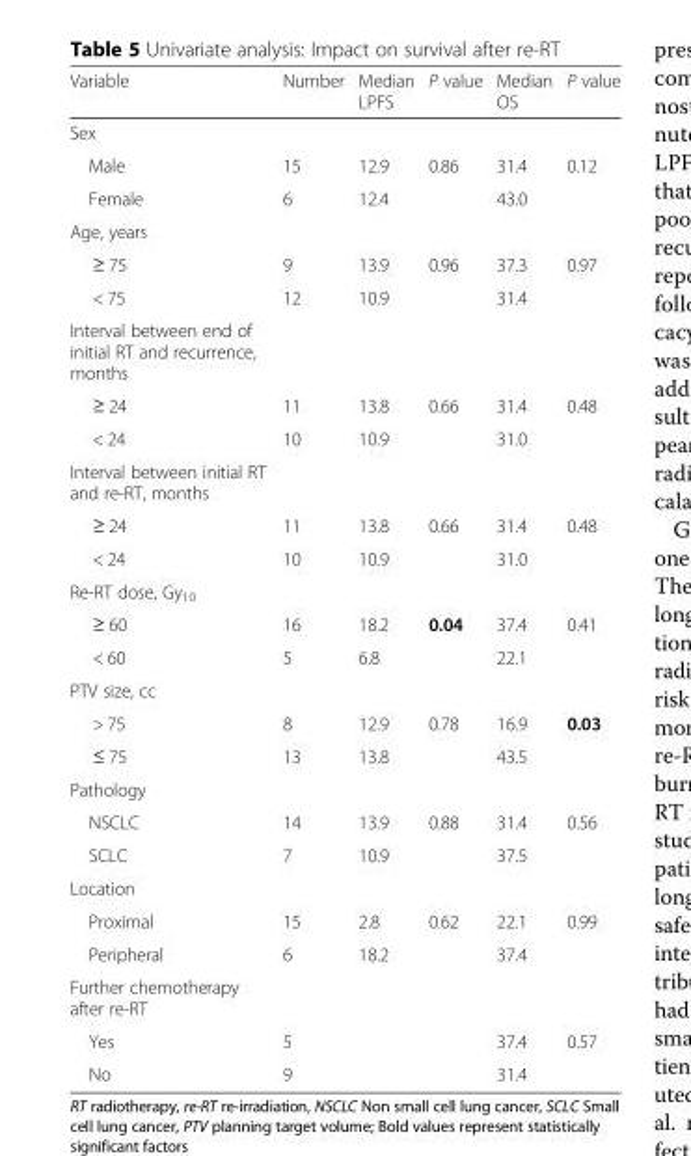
<table><thead><tr><td>Variable</td><td>Number</td><td>Median LPFS</td><td>P value</td><td>Median OS</td><td>P value</td></tr></thead><tbody><tr><td colspan="6">Sex</td></tr><tr><td>Male</td><td>15</td><td>12.9</td><td>0.86</td><td>31.4</td><td>0.12</td></tr><tr><td>Female</td><td>6</td><td>12.4</td><td></td><td>43.0</td><td></td></tr><tr><td colspan="6">Age, years</td></tr><tr><td>≥ 75</td><td>9</td><td>13.9</td><td>0.96</td><td>37.3</td><td>0.97</td></tr><tr><td>&lt; 75</td><td>12</td><td>10.9</td><td></td><td>31.4</td><td></td></tr><tr><td colspan="6">Interval between end of initial RT and recurrence, months</td></tr><tr><td>≥ 24</td><td>11</td><td>13.8</td><td>0.66</td><td>31.4</td><td>0.48</td></tr><tr><td>&lt; 24</td><td>10</td><td>10.9</td><td></td><td>31.0</td><td></td></tr><tr><td colspan="6">Interval between initial RT and re-RT, months</td></tr><tr><td>≥ 24</td><td>11</td><td>13.8</td><td>0.66</td><td>31.4</td><td>0.48</td></tr><tr><td>&lt; 24</td><td>10</td><td>10.9</td><td></td><td>31.0</td><td></td></tr><tr><td colspan="6">Re-RT dose, Gy<sub>10</sub></td></tr><tr><td>≥ 60</td><td>16</td><td>18.2</td><td>0.04</td><td>37.4</td><td>0.41</td></tr><tr><td>&lt; 60</td><td>5</td><td>6.8</td><td></td><td>22.1</td><td></td></tr><tr><td colspan="6">PTV size, cc</td></tr><tr><td>&gt; 75</td><td>8</td><td>12.9</td><td>0.78</td><td>16.9</td><td>0.03</td></tr><tr><td>≤ 75</td><td>13</td><td>13.8</td><td></td><td>43.5</td><td></td></tr><tr><td colspan="6">Pathology</td></tr><tr><td>NSCLC</td><td>14</td><td>13.9</td><td>0.88</td><td>31.4</td><td>0.56</td></tr><tr><td>SCLC</td><td>7</td><td>10.9</td><td></td><td>37.5</td><td></td></tr><tr><td colspan="6">Location</td></tr><tr><td>Proximal</td><td>15</td><td>2.8</td><td>0.62</td><td>22.1</td><td>0.99</td></tr><tr><td>Peripheral</td><td>6</td><td>18.2</td><td></td><td>37.4</td><td></td></tr><tr><td colspan="6">Further chemotherapy after re-RT</td></tr><tr><td>Yes</td><td>5</td><td></td><td></td><td>37.4</td><td>0.57</td></tr><tr><td>No</td><td>9</td><td></td><td></td><td>31.4</td><td></td></tr></tbody></table>